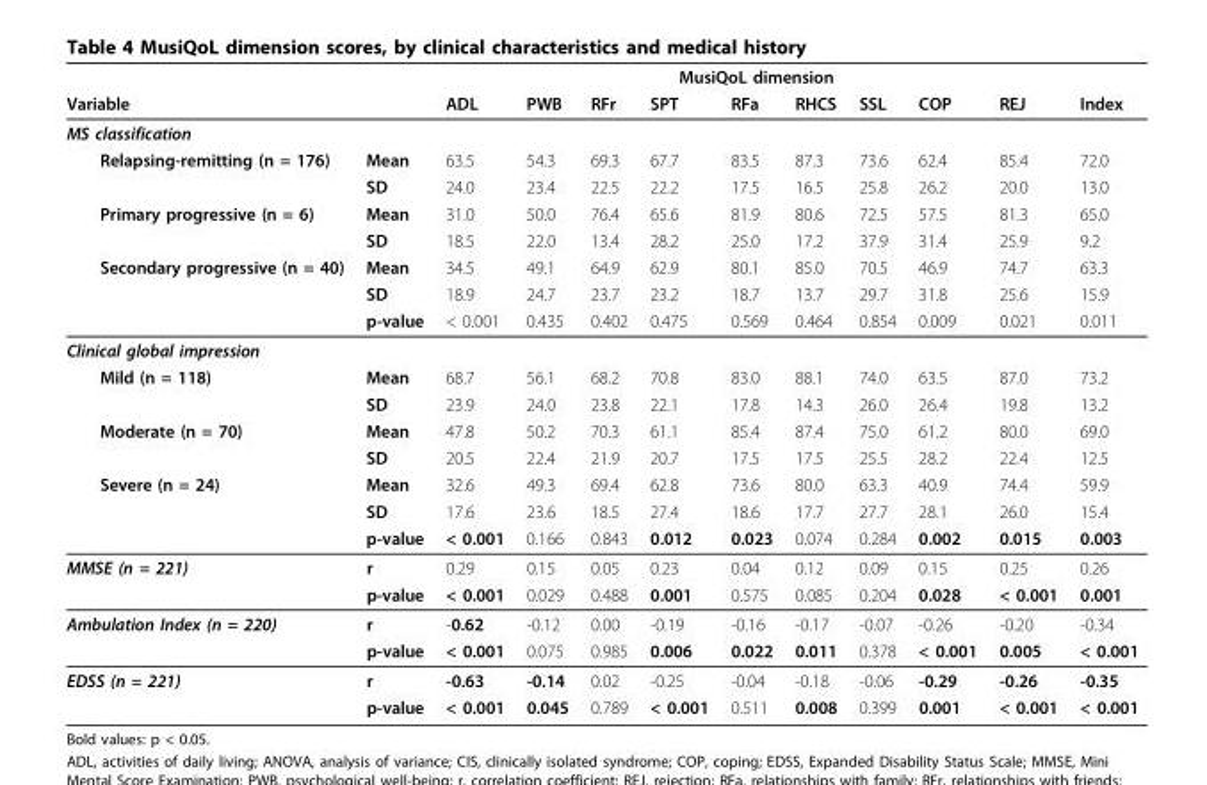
<table><thead><tr><td rowspan="2">Variable</td><td rowspan="2"></td><td colspan="9">MusiQoL dimension</td><td rowspan="2">Index</td></tr><tr><td>ADL</td><td>PWB</td><td>RFr</td><td>SPT</td><td>RFa</td><td>RHCS</td><td>SSL</td><td>COP</td><td>REJ</td></tr></thead><tbody><tr><td colspan="12">MS classification</td></tr><tr><td rowspan="2">Relapsing-remitting (n = 176)</td><td>Mean</td><td>63.5</td><td>54.3</td><td>69.3</td><td>67.7</td><td>83.5</td><td>87.3</td><td>73.6</td><td>62.4</td><td>85.4</td><td>72.0</td></tr><tr><td>SD</td><td>24.0</td><td>23.4</td><td>22.5</td><td>22.2</td><td>17.5</td><td>16.5</td><td>25.8</td><td>26.2</td><td>20.0</td><td>13.0</td></tr><tr><td rowspan="2">Primary progressive (n = 6)</td><td>Mean</td><td>31.0</td><td>50.0</td><td>76.4</td><td>65.6</td><td>81.9</td><td>80.6</td><td>72.5</td><td>57.5</td><td>81.3</td><td>65.0</td></tr><tr><td>SD</td><td>18.5</td><td>22.0</td><td>13.4</td><td>28.2</td><td>25.0</td><td>17.2</td><td>37.9</td><td>31.4</td><td>25.9</td><td>9.2</td></tr><tr><td rowspan="3">Secondary progressive (n = 40)</td><td>Mean</td><td>34.5</td><td>49.1</td><td>64.9</td><td>62.9</td><td>80.1</td><td>85.0</td><td>70.5</td><td>46.9</td><td>74.7</td><td>63.3</td></tr><tr><td>SD</td><td>18.9</td><td>24.7</td><td>23.7</td><td>23.2</td><td>18.7</td><td>13.7</td><td>29.7</td><td>31.8</td><td>25.6</td><td>15.9</td></tr><tr><td>p-value</td><td>&lt; 0.001</td><td>0.435</td><td>0.402</td><td>0.475</td><td>0.569</td><td>0.464</td><td>0.854</td><td>0.009</td><td>0.021</td><td>0.011</td></tr><tr><td colspan="12">Clinical global impression</td></tr><tr><td rowspan="2">Mild (n = 118)</td><td>Mean</td><td>68.7</td><td>56.1</td><td>68.2</td><td>70.8</td><td>83.0</td><td>88.1</td><td>74.0</td><td>63.5</td><td>87.0</td><td>73.2</td></tr><tr><td>SD</td><td>23.9</td><td>24.0</td><td>23.8</td><td>22.1</td><td>17.8</td><td>14.3</td><td>26.0</td><td>26.4</td><td>19.8</td><td>13.2</td></tr><tr><td rowspan="2">Moderate (n = 70)</td><td>Mean</td><td>47.8</td><td>50.2</td><td>70.3</td><td>61.1</td><td>85.4</td><td>87.4</td><td>75.0</td><td>61.2</td><td>80.0</td><td>69.0</td></tr><tr><td>SD</td><td>20.5</td><td>22.4</td><td>21.9</td><td>20.7</td><td>17.5</td><td>17.5</td><td>25.5</td><td>28.2</td><td>22.4</td><td>12.5</td></tr><tr><td rowspan="3">Severe (n = 24)</td><td>Mean</td><td>32.6</td><td>49.3</td><td>69.4</td><td>62.8</td><td>73.6</td><td>80.0</td><td>63.3</td><td>40.9</td><td>74.4</td><td>59.9</td></tr><tr><td>SD</td><td>17.6</td><td>23.6</td><td>18.5</td><td>27.4</td><td>18.6</td><td>17.7</td><td>27.7</td><td>28.1</td><td>26.0</td><td>15.4</td></tr><tr><td>p-value</td><td>&lt; 0.001</td><td>0.166</td><td>0.843</td><td>0.012</td><td>0.023</td><td>0.074</td><td>0.284</td><td>0.002</td><td>0.015</td><td>0.003</td></tr><tr><td rowspan="2">MMSE (n = 221)</td><td>r</td><td>0.29</td><td>0.15</td><td>0.05</td><td>0.23</td><td>0.04</td><td>0.12</td><td>0.09</td><td>0.15</td><td>0.25</td><td>0.26</td></tr><tr><td>p-value</td><td>&lt; 0.001</td><td>0.029</td><td>0.488</td><td>0.001</td><td>0.575</td><td>0.085</td><td>0.204</td><td>0.028</td><td>&lt; 0.001</td><td>0.001</td></tr><tr><td rowspan="2">Ambulation Index (n = 220)</td><td>r</td><td>-0.62</td><td>-0.12</td><td>0.00</td><td>-0.19</td><td>-0.16</td><td>-0.17</td><td>-0.07</td><td>-0.26</td><td>-0.20</td><td>-0.34</td></tr><tr><td>p-value</td><td>&lt; 0.001</td><td>0.075</td><td>0.985</td><td>0.006</td><td>0.022</td><td>0.011</td><td>0.378</td><td>&lt; 0.001</td><td>0.005</td><td>&lt; 0.001</td></tr><tr><td rowspan="2">EDSS (n = 221)</td><td>r</td><td>-0.63</td><td>-0.14</td><td>0.02</td><td>-0.25</td><td>-0.04</td><td>-0.18</td><td>-0.06</td><td>-0.29</td><td>-0.26</td><td>-0.35</td></tr><tr><td>p-value</td><td>&lt; 0.001</td><td>0.045</td><td>0.789</td><td>&lt; 0.001</td><td>0.511</td><td>0.008</td><td>0.399</td><td>0.001</td><td>&lt; 0.001</td><td>&lt; 0.001</td></tr></tbody></table>